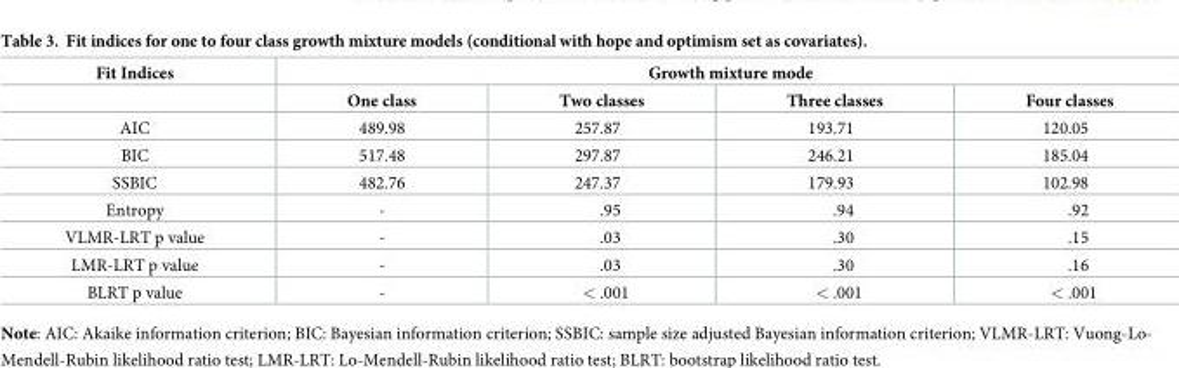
<table><thead><tr><td rowspan="2">Fit Indices</td><td colspan="4">Growth mixture mode</td></tr><tr><td>One class</td><td>Two classes</td><td>Three classes</td><td>Four classes</td></tr></thead><tbody><tr><td>AIC</td><td>489.98</td><td>257.87</td><td>193.71</td><td>120.05</td></tr><tr><td>BIC</td><td>517.48</td><td>297.87</td><td>246.21</td><td>185.04</td></tr><tr><td>SSBIC</td><td>482.76</td><td>247.37</td><td>179.93</td><td>102.98</td></tr><tr><td>Entropy</td><td>-</td><td>.95</td><td>.94</td><td>.92</td></tr><tr><td>VLMR-LRT p value</td><td>-</td><td>.03</td><td>.30</td><td>.15</td></tr><tr><td>LMR-LRT p value</td><td>-</td><td>.03</td><td>.30</td><td>.16</td></tr><tr><td>BLRT p value</td><td>-</td><td>&lt; .001</td><td>&lt; .001</td><td>&lt; .001</td></tr></tbody></table>